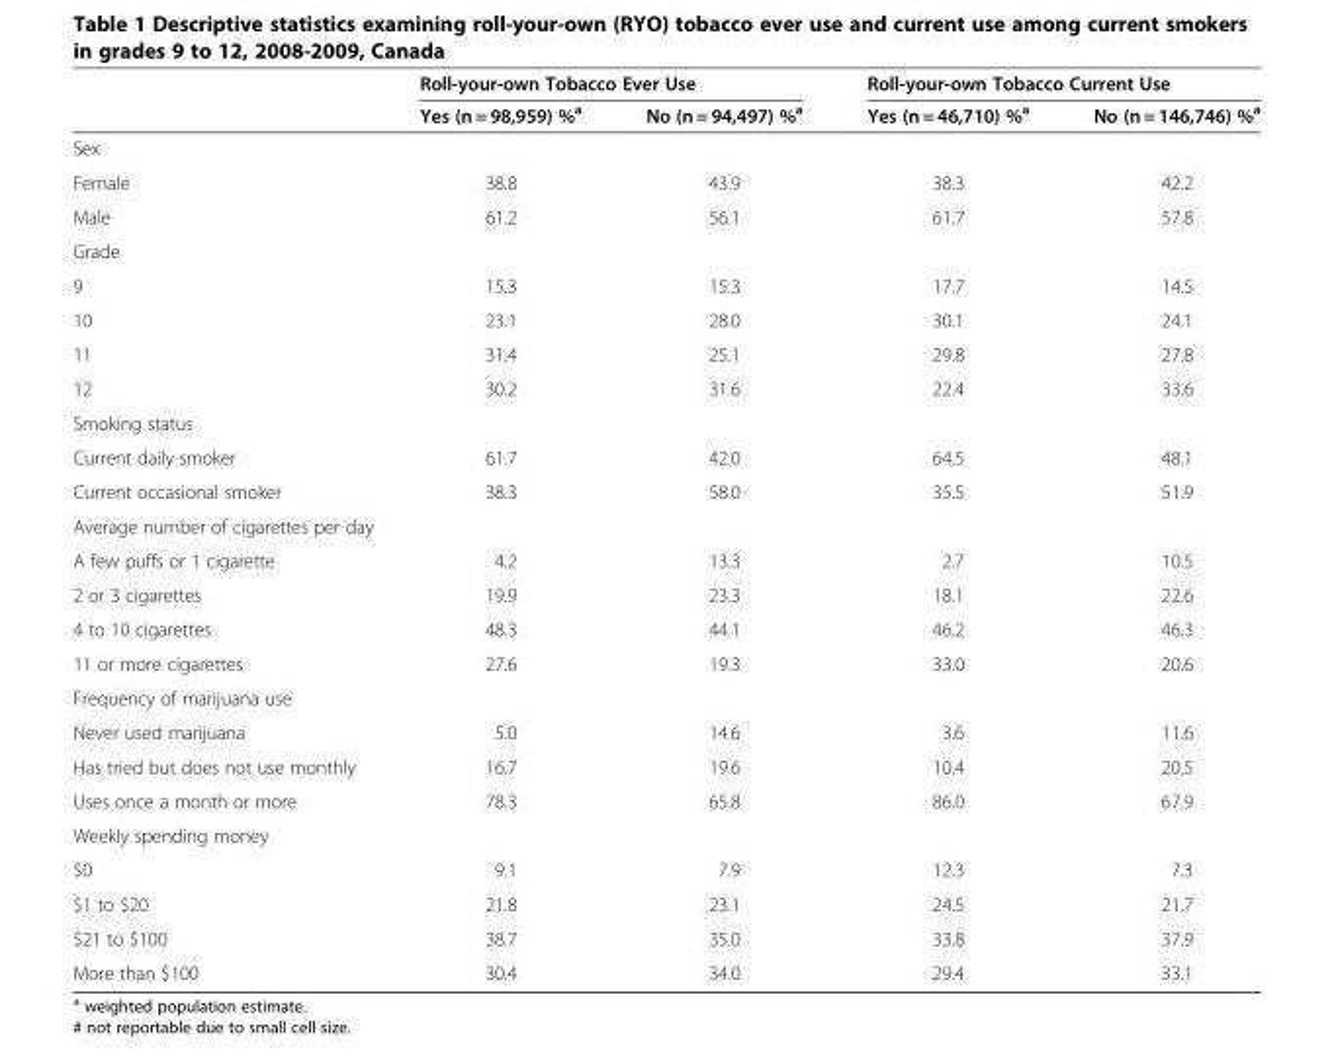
<table><thead><tr><td rowspan="2"></td><td colspan="2">Roll-your-own Tobacco Ever Use</td><td colspan="2">Roll-your-own Tobacco Current Use</td></tr><tr><td>Yes (n = 98,959) %<sup>a</sup></td><td>No (n = 94,497) %<sup>a</sup></td><td>Yes (n = 46,710) %<sup>a</sup></td><td>No (n = 146,746) %<sup>a</sup></td></tr></thead><tbody><tr><td colspan="5">Sex</td></tr><tr><td>Female</td><td>38.8</td><td>43.9</td><td>38.3</td><td>42.2</td></tr><tr><td>Male</td><td>61.2</td><td>56.1</td><td>61.7</td><td>57.8</td></tr><tr><td colspan="5">Grade</td></tr><tr><td>9</td><td>15.3</td><td>15.3</td><td>17.7</td><td>14.5</td></tr><tr><td>10</td><td>23.1</td><td>28.0</td><td>30.1</td><td>24.1</td></tr><tr><td>11</td><td>31.4</td><td>25.1</td><td>29.8</td><td>27.8</td></tr><tr><td>12</td><td>30.2</td><td>31.6</td><td>22.4</td><td>33.6</td></tr><tr><td colspan="5">Smoking status</td></tr><tr><td>Current daily smoker</td><td>61.7</td><td>42.0</td><td>64.5</td><td>48.1</td></tr><tr><td>Current occasional smoker</td><td>38.3</td><td>58.0</td><td>35.5</td><td>51.9</td></tr><tr><td colspan="5">Average number of cigarettes per day</td></tr><tr><td>A few puffs or 1 cigarette</td><td>4.2</td><td>13.3</td><td>2.7</td><td>10.5</td></tr><tr><td>2 or 3 cigarettes</td><td>19.9</td><td>23.3</td><td>18.1</td><td>22.6</td></tr><tr><td>4 to 10 cigarettes</td><td>48.3</td><td>44.1</td><td>46.2</td><td>46.3</td></tr><tr><td>11 or more cigarettes</td><td>27.6</td><td>19.3</td><td>33.0</td><td>20.6</td></tr><tr><td colspan="5">Frequency of marijuana use</td></tr><tr><td>Never used marijuana</td><td>5.0</td><td>14.6</td><td>3.6</td><td>11.6</td></tr><tr><td>Has tried but does not use monthly</td><td>16.7</td><td>19.6</td><td>10.4</td><td>20.5</td></tr><tr><td>Uses once a month or more</td><td>78.3</td><td>65.8</td><td>86.0</td><td>67.9</td></tr><tr><td colspan="5">Weekly spending money</td></tr><tr><td>$0</td><td>9.1</td><td>7.9</td><td>12.3</td><td>7.3</td></tr><tr><td>$1 to $20</td><td>21.8</td><td>23.1</td><td>24.5</td><td>21.7</td></tr><tr><td>$21 to $100</td><td>38.7</td><td>35.0</td><td>33.8</td><td>37.9</td></tr><tr><td>More than $100</td><td>30.4</td><td>34.0</td><td>29.4</td><td>33.1</td></tr></tbody></table>